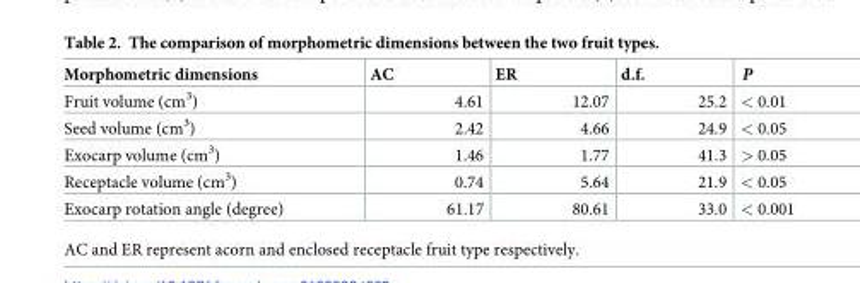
<table><thead><tr><td>Morphometric dimensions</td><td>AC</td><td>ER</td><td>d.f.</td><td>P</td></tr></thead><tbody><tr><td>Fruit volume (cm<sup>3</sup>)</td><td>4.61</td><td>12.07</td><td>25.2</td><td>&lt; 0.01</td></tr><tr><td>Seed volume (cm<sup>3</sup>)</td><td>2.42</td><td>4.66</td><td>24.9</td><td>&lt; 0.05</td></tr><tr><td>Exocarp volume (cm<sup>3</sup>)</td><td>1.46</td><td>1.77</td><td>41.3</td><td>&gt; 0.05</td></tr><tr><td>Receptacle volume (cm<sup>3</sup>)</td><td>0.74</td><td>5.64</td><td>21.9</td><td>&lt; 0.05</td></tr><tr><td>Exocarp rotation angle (degree)</td><td>61.17</td><td>80.61</td><td>33.0</td><td>&lt; 0.001</td></tr></tbody></table>